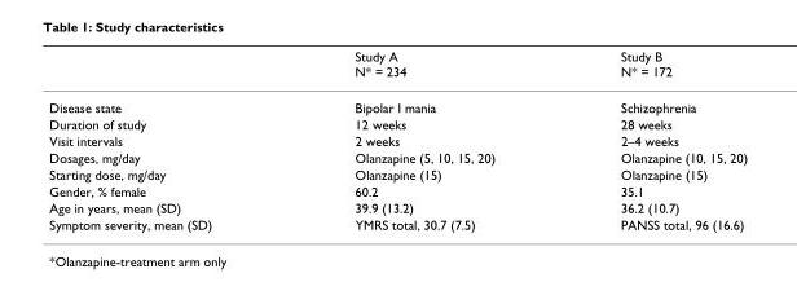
<table><thead><tr><td></td><td>Study A N* = 234</td><td>Study B N* = 172</td></tr></thead><tbody><tr><td>Disease state</td><td>Bipolar I mania</td><td>Schizophrenia</td></tr><tr><td>Duration of study</td><td>12 weeks</td><td>28 weeks</td></tr><tr><td>Visit intervals</td><td>2 weeks</td><td>2–4 weeks</td></tr><tr><td>Dosages, mg/day</td><td>Olanzapine (5, 10, 15, 20)</td><td>Olanzapine (10, 15, 20)</td></tr><tr><td>Starting dose, mg/day</td><td>Olanzapine (15)</td><td>Olanzapine (15)</td></tr><tr><td>Gender, % female</td><td>60.2</td><td>35.1</td></tr><tr><td>Age in years, mean (SD)</td><td>39.9 (13.2)</td><td>36.2 (10.7)</td></tr><tr><td>Symptom severity, mean (SD)</td><td>YMRS total, 30.7 (7.5)</td><td>PANSS total, 96 (16.6)</td></tr></tbody></table>